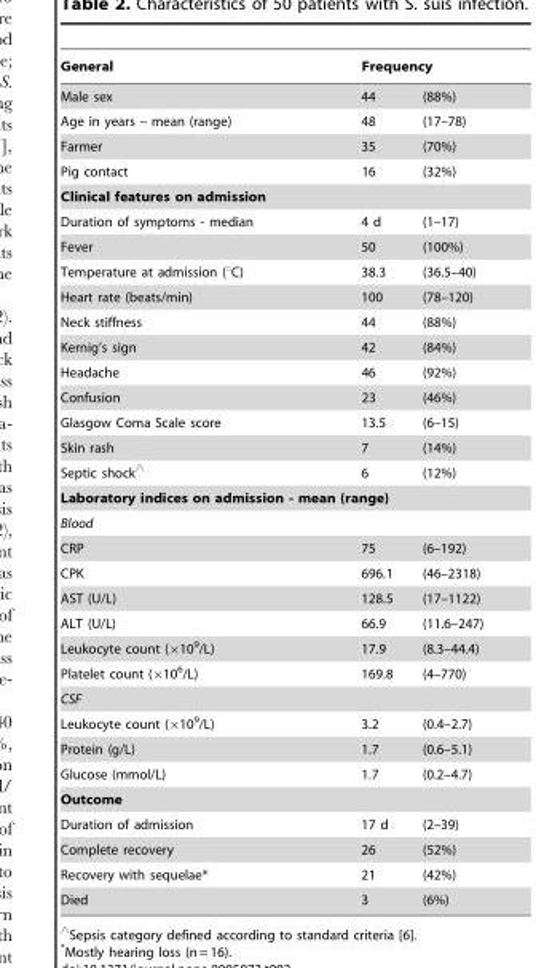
<table><thead><tr><td rowspan="2">General Male sex</td><td colspan="2">Frequency</td></tr><tr><td>44</td><td>(88%)</td></tr></thead><tbody><tr><td>Age in years – mean (range)</td><td>48</td><td>(17–78)</td></tr><tr><td>Farmer</td><td>35</td><td>(70%)</td></tr><tr><td>Pig contact</td><td>16</td><td>(32%)</td></tr><tr><td colspan="3">Clinical features on admission</td></tr><tr><td>Duration of symptoms - median</td><td>4 d</td><td>(1–17)</td></tr><tr><td>Fever</td><td>50</td><td>(100%)</td></tr><tr><td>Temperature at admission (°C)</td><td>38.3</td><td>(36.5–40)</td></tr><tr><td>Heart rate (beats/min)</td><td>100</td><td>(78–120)</td></tr><tr><td>Neck stiffness</td><td>44</td><td>(88%)</td></tr><tr><td>Kernig’s sign</td><td>42</td><td>(84%)</td></tr><tr><td>Headache</td><td>46</td><td>(92%)</td></tr><tr><td>Confusion</td><td>23</td><td>(46%)</td></tr><tr><td>Glasgow Coma Scale score</td><td>13.5</td><td>(6–15)</td></tr><tr><td>Skin rash</td><td>7</td><td>(14%)</td></tr><tr><td>Septic shock‘</td><td>6</td><td>(12%)</td></tr><tr><td colspan="3">Laboratory indices on admission - mean (range)</td></tr><tr><td colspan="3">Blood</td></tr><tr><td>CRP</td><td>75</td><td>(6–192)</td></tr><tr><td>CPK</td><td>696.1</td><td>(46–2318)</td></tr><tr><td>AST (U/L)</td><td>128.5</td><td>(17–1122)</td></tr><tr><td>ALT (U/L)</td><td>66.9</td><td>(11.6–247)</td></tr><tr><td>Leukocyte count (×10<sup>9</sup>/L)</td><td>17.9</td><td>(8.3–44.4)</td></tr><tr><td>Platelet count (×10<sup>6</sup>/L)</td><td>169.8</td><td>(4–770)</td></tr><tr><td colspan="3">CSF</td></tr><tr><td>Leukocyte count (×10<sup>9</sup>/L)</td><td>3.2</td><td>(0.4–2.7)</td></tr><tr><td>Protein (g/L)</td><td>1.7</td><td>(0.6–5.1)</td></tr><tr><td>Glucose (mmol/L)</td><td>1.7</td><td>(0.2–4.7)</td></tr><tr><td colspan="3">Outcome</td></tr><tr><td>Duration of admission</td><td>17 d</td><td>(2–39)</td></tr><tr><td>Complete recovery</td><td>26</td><td>(52%)</td></tr><tr><td>Recovery with sequelae*</td><td>21</td><td>(42%)</td></tr><tr><td>Died</td><td>3</td><td>(6%)</td></tr></tbody></table>